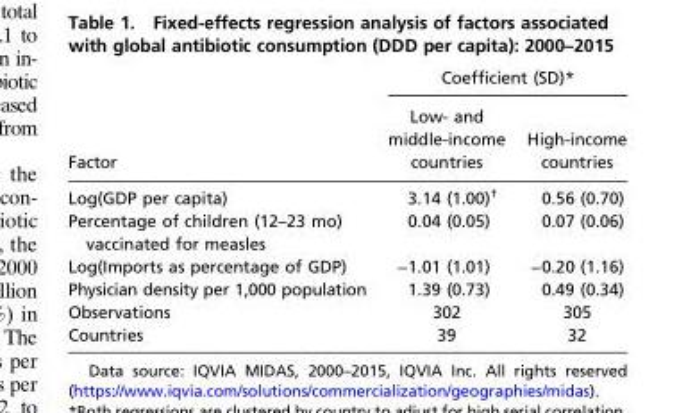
<table><thead><tr><td rowspan="2">Factor</td><td colspan="2">Coefficient (SD)*</td></tr><tr><td>Low- and middle-income countries</td><td>High-income countries</td></tr></thead><tbody><tr><td>Log(GDP per capita)</td><td>3.14 (1.00)<sup>†</sup></td><td>0.56 (0.70)</td></tr><tr><td>Percentage of children (12–23 mo) vaccinated for measles</td><td>0.04 (0.05)</td><td>0.07 (0.06)</td></tr><tr><td>Log(Imports as percentage of GDP)</td><td>−1.01 (1.01)</td><td>−0.20 (1.16)</td></tr><tr><td>Physician density per 1,000 population</td><td>1.39 (0.73)</td><td>0.49 (0.34)</td></tr><tr><td>Observations</td><td>302</td><td>305</td></tr><tr><td>Countries</td><td>39</td><td>32</td></tr></tbody></table>